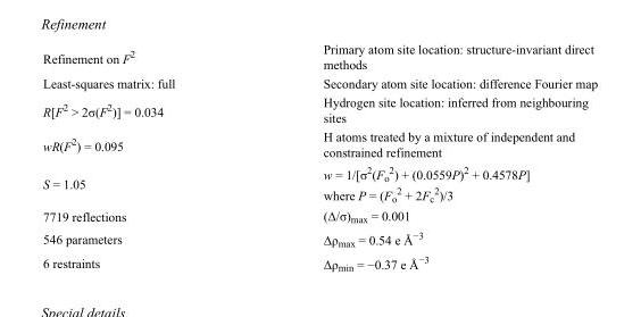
<table><tbody><tr><td>Refinement on F<sup>2</sup></td><td>Primary atom site location: structure-invariant direct methods</td></tr><tr><td>Least-squares matrix: full</td><td>Secondary atom site location: difference Fourier map</td></tr><tr><td>R[F<sup>2</sup> &gt; 2σ(F<sup>2</sup>)] = 0.034</td><td>Hydrogen site location: inferred from neighbouring sites</td></tr><tr><td>wR(F<sup>2</sup>) = 0.095</td><td>H atoms treated by a mixture of independent and constrained refinement</td></tr><tr><td>S = 1.05</td><td>w = 1/[σ<sup>2</sup>(F<sub>o</sub> <sup>2</sup>) + (0.0559P)<sup>2</sup> + 0.4578P] where P = (F<sub>o</sub> <sup>2</sup> + 2F<sub>c</sub> <sup>2</sup>)/3</td></tr><tr><td>7719 reflections</td><td>(Δ/σ)<sub>max</sub> = 0.001</td></tr><tr><td>546 parameters</td><td>Δρ<sub>max</sub> = 0.54 e Å<sup>−3</sup></td></tr><tr><td>6 restraints</td><td>Δρ<sub>min</sub> = −0.37 e Å<sup>−3</sup></td></tr></tbody></table>